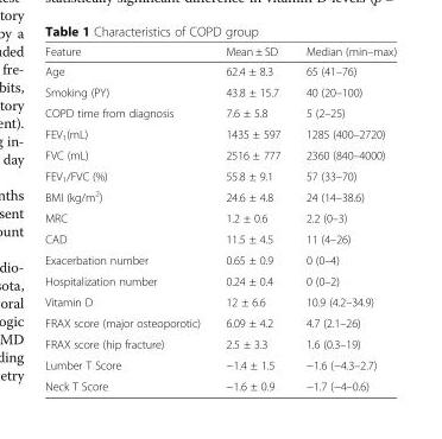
<table><thead><tr><td>Feature</td><td>Mean ± SD</td><td>Median (min–max)</td></tr></thead><tbody><tr><td>Age</td><td>62.4 ± 8.3</td><td>65 (41–76)</td></tr><tr><td>Smoking (PY)</td><td>43.8 ± 15.7</td><td>40 (20–100)</td></tr><tr><td>COPD time from diagnosis</td><td>7.6 ± 5.8</td><td>5 (2–25)</td></tr><tr><td>FEV<sub>1</sub>(mL)</td><td>1435 ± 597</td><td>1285 (400–2720)</td></tr><tr><td>FVC (mL)</td><td>2516 ± 777</td><td>2360 (840–4000)</td></tr><tr><td>FEV<sub>1</sub>/FVC (%)</td><td>55.8 ± 9.1</td><td>57 (33–70)</td></tr><tr><td>BMI (kg/m<sup>2</sup>)</td><td>24.6 ± 4.8</td><td>24 (14–38.6)</td></tr><tr><td>MRC</td><td>1.2 ± 0.6</td><td>2.2 (0–3)</td></tr><tr><td>CAD</td><td>11.5 ± 4.5</td><td>11 (4–26)</td></tr><tr><td>Exacerbation number</td><td>0.65 ± 0.9</td><td>0 (0–4)</td></tr><tr><td>Hospitalization number</td><td>0.24 ± 0.4</td><td>0 (0–2)</td></tr><tr><td>Vitamin D</td><td>12 ± 6.6</td><td>10.9 (4.2–34.9)</td></tr><tr><td>FRAX score (major osteoporotic)</td><td>6.09 ± 4.2</td><td>4.7 (2.1–26)</td></tr><tr><td>FRAX score (hip fracture)</td><td>2.5 ± 3.3</td><td>1.6 (0.3–19)</td></tr><tr><td>Lumber T Score</td><td>−1.4 ± 1.5</td><td>−1.6 (−4.3–2.7)</td></tr><tr><td>Neck T Score</td><td>−1.6 ± 0.9</td><td>−1.7 (−4–0.6)</td></tr></tbody></table>